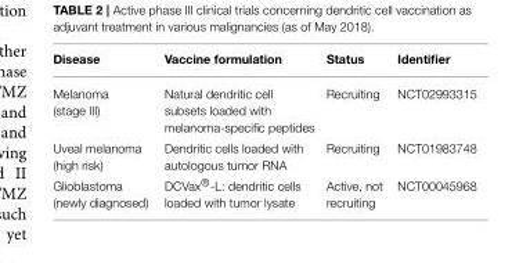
<table><thead><tr><td>Disease</td><td>Vaccine formulation</td><td>Status</td><td>Identifier</td></tr></thead><tbody><tr><td>Melanoma (stage III)</td><td>Natural dendritic cell subsets loaded with melanoma-specific peptides</td><td>Recruiting</td><td>NCT02993315</td></tr><tr><td>Uveal melanoma (high risk)</td><td>Dendritic cells loaded with autologous tumor RNA</td><td>Recruiting</td><td>NCT01983748</td></tr><tr><td>Glioblastoma (newly diagnosed)</td><td>DCVax®-L: dendritic cells loaded with tumor lysate</td><td>Active, not recruiting</td><td>NCT00045968</td></tr></tbody></table>